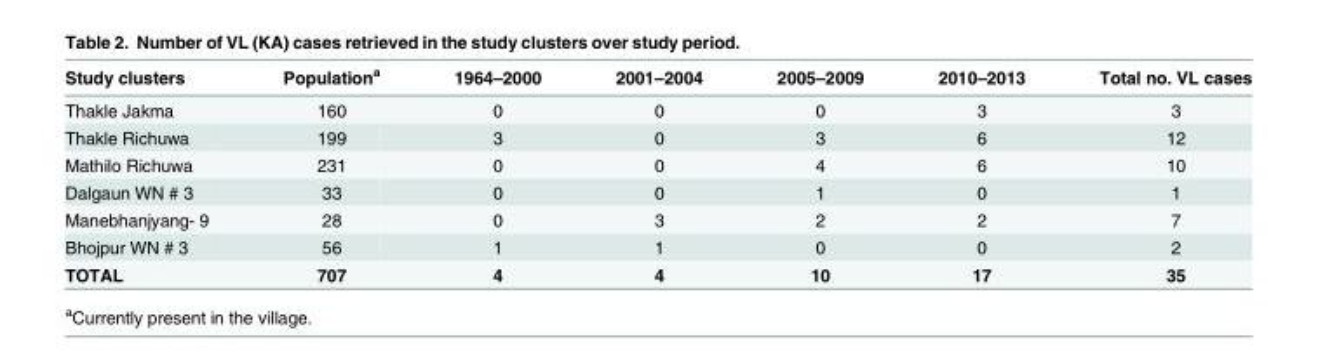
<table><thead><tr><td>Study clusters</td><td>Population<sup>a</sup></td><td>1964–2000</td><td>2001–2004</td><td>2005–2009</td><td>2010–2013</td><td>Total no. VL cases</td></tr></thead><tbody><tr><td>Thakle Jakma</td><td>160</td><td>0</td><td>0</td><td>0</td><td>3</td><td>3</td></tr><tr><td>Thakle Richuwa</td><td>199</td><td>3</td><td>0</td><td>3</td><td>6</td><td>12</td></tr><tr><td>Mathilo Richuwa</td><td>231</td><td>0</td><td>0</td><td>4</td><td>6</td><td>10</td></tr><tr><td>Dalgaun WN # 3</td><td>33</td><td>0</td><td>0</td><td>1</td><td>0</td><td>1</td></tr><tr><td>Manebhanjyang- 9</td><td>28</td><td>0</td><td>3</td><td>2</td><td>2</td><td>7</td></tr><tr><td>Bhojpur WN # 3</td><td>56</td><td>1</td><td>1</td><td>0</td><td>0</td><td>2</td></tr><tr><td>TOTAL</td><td>707</td><td>4</td><td>4</td><td>10</td><td>17</td><td>35</td></tr></tbody></table>